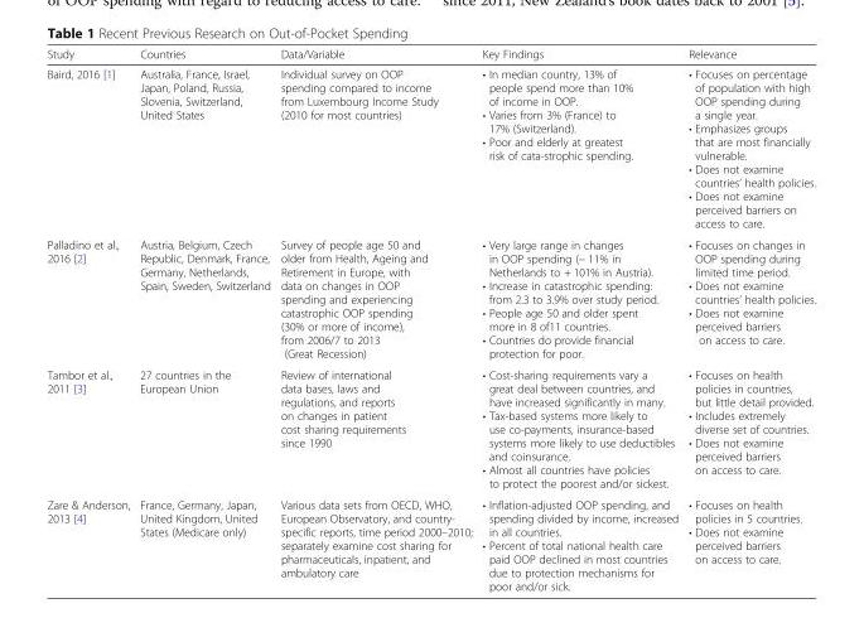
<table><thead><tr><td>Study</td><td>Countries</td><td>Data/Variable</td><td>Key Findings</td><td>Relevance</td></tr></thead><tbody><tr><td>Baird, 2016 [1]</td><td>Australia, France, Israel, Japan, Poland, Russia, Slovenia, Switzerland, United States</td><td>Individual survey on OOP spending compared to income from Luxembourg Income Study (2010 for most countries)</td><td>• In median country, 13% of people spend more than 10% of income in OOP. • Varies from 3% (France) to 17% (Switzerland). • Poor and elderly at greatest risk of cata-strophic spending.</td><td>• Focuses on percentage of population with high OOP spending during a single year. • Emphasizes groups that are most financially vulnerable. • Does not examine countries’ health policies. • Does not examine perceived barriers on access to care.</td></tr><tr><td>Palladino et al., 2016 [2]</td><td>Austria, Belgium, Czech Republic, Denmark, France, Germany, Netherlands, Spain, Sweden, Switzerland</td><td>Survey of people age 50 and older from Health, Ageing and Retirement in Europe, with data on changes in OOP spending and experiencing catastrophic OOP spending (30% or more of income), from 2006/7 to 2013 (Great Recession)</td><td>• Very large range in changes in OOP spending (− 11% in Netherlands to + 101% in Austria). • Increase in catastrophic spending: from 2.3 to 3.9% over study period. • People age 50 and older spent more in 8 of11 countries. • Countries do provide financial protection for poor.</td><td>• Focuses on changes in OOP spending during limited time period. • Does not examine countries’ health policies. • Does not examine perceived barriers on access to care.</td></tr><tr><td>Tambor et al., 2011 [3]</td><td>27 countries in the European Union</td><td>Review of international data bases, laws and regulations, and reports on changes in patient cost sharing requirements since 1990</td><td>• Cost-sharing requirements vary a great deal between countries, and have increased significantly in many. • Tax-based systems more likely to use co-payments, insurance-based systems more likely to use deductibles and coinsurance. • Almost all countries have policies to protect the poorest and/or sickest.</td><td>• Focuses on health policies in countries, but little detail provided. • Includes extremely diverse set of countries. • Does not examine perceived barriers on access to care.</td></tr><tr><td>Zare &amp; Anderson, 2013 [4]</td><td>France, Germany, Japan, United Kingdom, United States (Medicare only)</td><td>Various data sets from OECD, WHO, European Observatory, and country- specific reports, time period 2000–2010; separately examine cost sharing for pharmaceuticals, inpatient, and ambulatory care</td><td>• Inflation-adjusted OOP spending, and spending divided by income, increased in all countries. • Percent of total national health care paid OOP declined in most countries due to protection mechanisms for poor and/or sick.</td><td>• Focuses on health policies in 5 countries. • Does not examine perceived barriers on access to care.</td></tr></tbody></table>